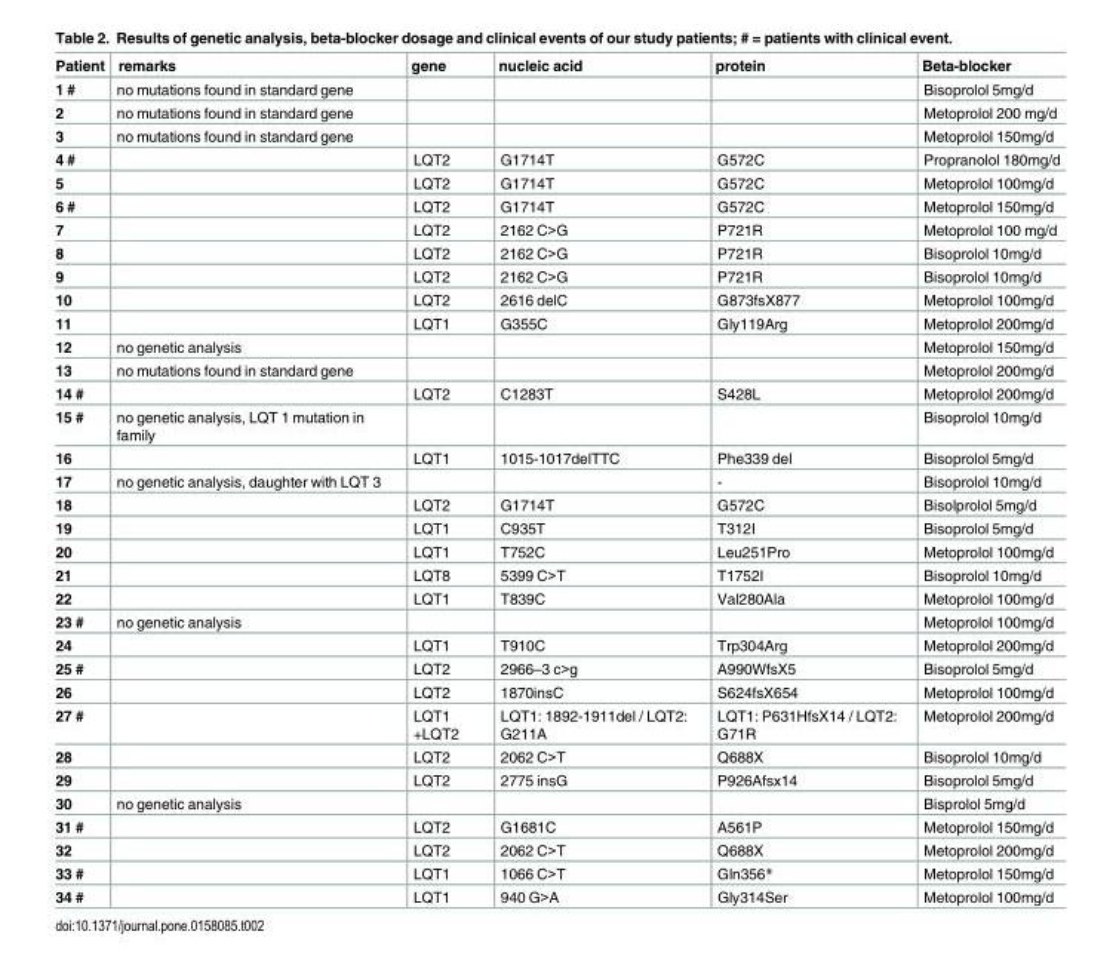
<table><thead><tr><td>Patient</td><td>remarks</td><td>gene</td><td>nucleic acid</td><td>protein</td><td>Beta-blocker</td></tr></thead><tbody><tr><td>1 #</td><td>no mutations found in standard gene</td><td></td><td></td><td></td><td>Bisoprolol 5mg/d</td></tr><tr><td>2</td><td>no mutations found in standard gene</td><td></td><td></td><td></td><td>Metoprolol 200 mg/d</td></tr><tr><td>3</td><td>no mutations found in standard gene</td><td></td><td></td><td></td><td>Metoprolol 150mg/d</td></tr><tr><td>4 #</td><td></td><td>LQT2</td><td>G1714T</td><td>G572C</td><td>Propranolol 180mg/d</td></tr><tr><td>5</td><td></td><td>LQT2</td><td>G1714T</td><td>G572C</td><td>Metoprolol 100mg/d</td></tr><tr><td>6 #</td><td></td><td>LQT2</td><td>G1714T</td><td>G572C</td><td>Metoprolol 150mg/d</td></tr><tr><td>7</td><td></td><td>LQT2</td><td>2162 C&gt;G</td><td>P721R</td><td>Metoprolol 100 mg/d</td></tr><tr><td>8</td><td></td><td>LQT2</td><td>2162 C&gt;G</td><td>P721R</td><td>Bisoprolol 10mg/d</td></tr><tr><td>9</td><td></td><td>LQT2</td><td>2162 C&gt;G</td><td>P721R</td><td>Bisoprolol 10mg/d</td></tr><tr><td>10</td><td></td><td>LQT2</td><td>2616 delC</td><td>G873fsX877</td><td>Metoprolol 100mg/d</td></tr><tr><td>11</td><td></td><td>LQT1</td><td>G355C</td><td>Gly119Arg</td><td>Metoprolol 200mg/d</td></tr><tr><td>12</td><td>no genetic analysis</td><td></td><td></td><td></td><td>Metoprolol 150mg/d</td></tr><tr><td>13</td><td>no mutations found in standard gene</td><td></td><td></td><td></td><td>Metoprolol 200mg/d</td></tr><tr><td>14 #</td><td></td><td>LQT2</td><td>C1283T</td><td>S428L</td><td>Metoprolol 200mg/d</td></tr><tr><td>15 #</td><td>no genetic analysis, LQT 1 mutation in family</td><td></td><td></td><td></td><td>Bisoprolol 10mg/d</td></tr><tr><td>16</td><td></td><td>LQT1</td><td>1015-1017delTTC</td><td>Phe339 del</td><td>Bisoprolol 5mg/d</td></tr><tr><td>17</td><td>no genetic analysis, daughter with LQT 3</td><td></td><td></td><td>-</td><td>Bisoprolol 10mg/d</td></tr><tr><td>18</td><td></td><td>LQT2</td><td>G1714T</td><td>G572C</td><td>Bisolprolol 5mg/d</td></tr><tr><td>19</td><td></td><td>LQT1</td><td>C935T</td><td>T312I</td><td>Bisoprolol 5mg/d</td></tr><tr><td>20</td><td></td><td>LQT1</td><td>T752C</td><td>Leu251Pro</td><td>Metoprolol 100mg/d</td></tr><tr><td>21</td><td></td><td>LQT8</td><td>5399 C&gt;T</td><td>T1752I</td><td>Bisoprolol 10mg/d</td></tr><tr><td>22</td><td></td><td>LQT1</td><td>T839C</td><td>Val280Ala</td><td>Metoprolol 100mg/d</td></tr><tr><td>23 #</td><td>no genetic analysis</td><td></td><td></td><td></td><td>Metoprolol 100mg/d</td></tr><tr><td>24</td><td></td><td>LQT1</td><td>T910C</td><td>Trp304Arg</td><td>Metoprolol 200mg/d</td></tr><tr><td>25 #</td><td></td><td>LQT2</td><td>2966–3 c&gt;g</td><td>A990WfsX5</td><td>Bisoprolol 5mg/d</td></tr><tr><td>26</td><td></td><td>LQT2</td><td>1870insC</td><td>S624fsX654</td><td>Metoprolol 100mg/d</td></tr><tr><td>27 #</td><td></td><td>LQT1 +LQT2</td><td>LQT1: 1892-1911del / LQT2: G211A</td><td>LQT1: P631HfsX14 / LQT2: G71R</td><td>Metoprolol 200mg/d</td></tr><tr><td>28</td><td></td><td>LQT2</td><td>2062 C&gt;T</td><td>Q688X</td><td>Bisoprolol 10mg/d</td></tr><tr><td>29</td><td></td><td>LQT2</td><td>2775 insG</td><td>P926Afsx14</td><td>Bisoprolol 5mg/d</td></tr><tr><td>30</td><td>no genetic analysis</td><td></td><td></td><td></td><td>Bisprolol 5mg/d</td></tr><tr><td>31 #</td><td></td><td>LQT2</td><td>G1681C</td><td>A561P</td><td>Metoprolol 150mg/d</td></tr><tr><td>32</td><td></td><td>LQT2</td><td>2062 C&gt;T</td><td>Q688X</td><td>Metoprolol 200mg/d</td></tr><tr><td>33 #</td><td></td><td>LQT1</td><td>1066 C&gt;T</td><td>Gln356*</td><td>Metoprolol 150mg/d</td></tr><tr><td>34 #</td><td></td><td>LQT1</td><td>940 G&gt;A</td><td>Gly314Ser</td><td>Metoprolol 100mg/d</td></tr></tbody></table>